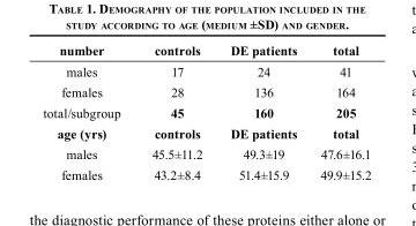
<table><thead><tr><td>number</td><td>controls</td><td>DE patients</td><td>total</td></tr></thead><tbody><tr><td>males</td><td>17</td><td>24</td><td>41</td></tr><tr><td>females</td><td>28</td><td>136</td><td>164</td></tr><tr><td>total/subgroup</td><td>45</td><td>160</td><td>205</td></tr><tr><td>age (yrs)</td><td>controls</td><td>DE patients</td><td>total</td></tr><tr><td>males</td><td>45.5±11.2</td><td>49.3±19</td><td>47.6±16.1</td></tr><tr><td>females</td><td>43.2±8.4</td><td>51.4±15.9</td><td>49.9±15.2</td></tr></tbody></table>